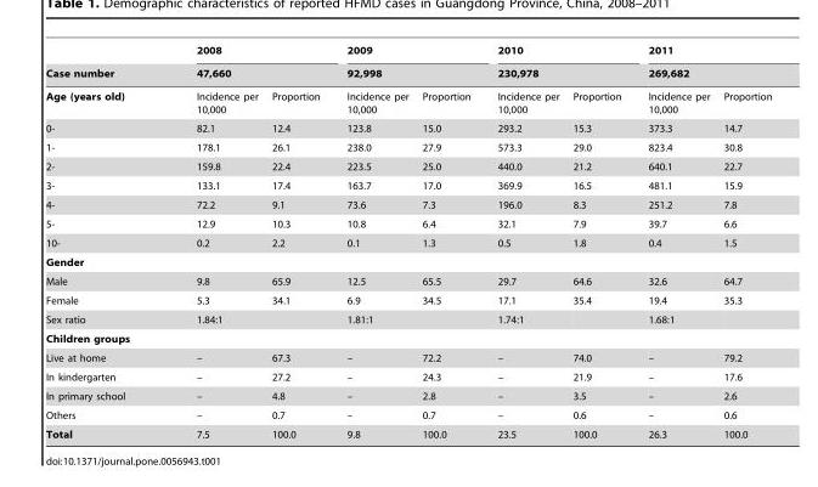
<table><thead><tr><td rowspan="3">Case number Age (years old)</td><td rowspan="2" colspan="2">2008 47,660</td><td rowspan="2" colspan="2">2009 92,998</td><td rowspan="2" colspan="2">2010 230,978</td><td rowspan="2" colspan="2">2011 269,682</td></tr><tr></tr><tr><td>Incidence per 10,000</td><td>Proportion</td><td>Incidence per 10,000</td><td>Proportion</td><td>Incidence per 10,000</td><td>Proportion</td><td>Incidence per 10,000</td><td>Proportion</td></tr></thead><tbody><tr><td>0-</td><td>82.1</td><td>12.4</td><td>123.8</td><td>15.0</td><td>293.2</td><td>15.3</td><td>373.3</td><td>14.7</td></tr><tr><td>1-</td><td>178.1</td><td>26.1</td><td>238.0</td><td>27.9</td><td>573.3</td><td>29.0</td><td>823.4</td><td>30.8</td></tr><tr><td>2-</td><td>159.8</td><td>22.4</td><td>223.5</td><td>25.0</td><td>440.0</td><td>21.2</td><td>640.1</td><td>22.7</td></tr><tr><td>3-</td><td>133.1</td><td>17.4</td><td>163.7</td><td>17.0</td><td>369.9</td><td>16.5</td><td>481.1</td><td>15.9</td></tr><tr><td>4-</td><td>72.2</td><td>9.1</td><td>73.6</td><td>7.3</td><td>196.0</td><td>8.3</td><td>251.2</td><td>7.8</td></tr><tr><td>5-</td><td>12.9</td><td>10.3</td><td>10.8</td><td>6.4</td><td>32.1</td><td>7.9</td><td>39.7</td><td>6.6</td></tr><tr><td>10-</td><td>0.2</td><td>2.2</td><td>0.1</td><td>1.3</td><td>0.5</td><td>1.8</td><td>0.4</td><td>1.5</td></tr><tr><td colspan="9">Gender</td></tr><tr><td>Male</td><td>9.8</td><td>65.9</td><td>12.5</td><td>65.5</td><td>29.7</td><td>64.6</td><td>32.6</td><td>64.7</td></tr><tr><td>Female</td><td>5.3</td><td>34.1</td><td>6.9</td><td>34.5</td><td>17.1</td><td>35.4</td><td>19.4</td><td>35.3</td></tr><tr><td>Sex ratio</td><td>1.84:1</td><td></td><td>1.81:1</td><td></td><td>1.74:1</td><td></td><td>1.68:1</td><td></td></tr><tr><td colspan="9">Children groups</td></tr><tr><td>Live at home</td><td>–</td><td>67.3</td><td>–</td><td>72.2</td><td>–</td><td>74.0</td><td>–</td><td>79.2</td></tr><tr><td>In kindergarten</td><td>–</td><td>27.2</td><td>–</td><td>24.3</td><td>–</td><td>21.9</td><td>–</td><td>17.6</td></tr><tr><td>In primary school</td><td>–</td><td>4.8</td><td>–</td><td>2.8</td><td>–</td><td>3.5</td><td>–</td><td>2.6</td></tr><tr><td>Others</td><td>–</td><td>0.7</td><td>–</td><td>0.7</td><td>–</td><td>0.6</td><td>–</td><td>0.6</td></tr><tr><td>Total</td><td>7.5</td><td>100.0</td><td>9.8</td><td>100.0</td><td>23.5</td><td>100.0</td><td>26.3</td><td>100.0</td></tr></tbody></table>